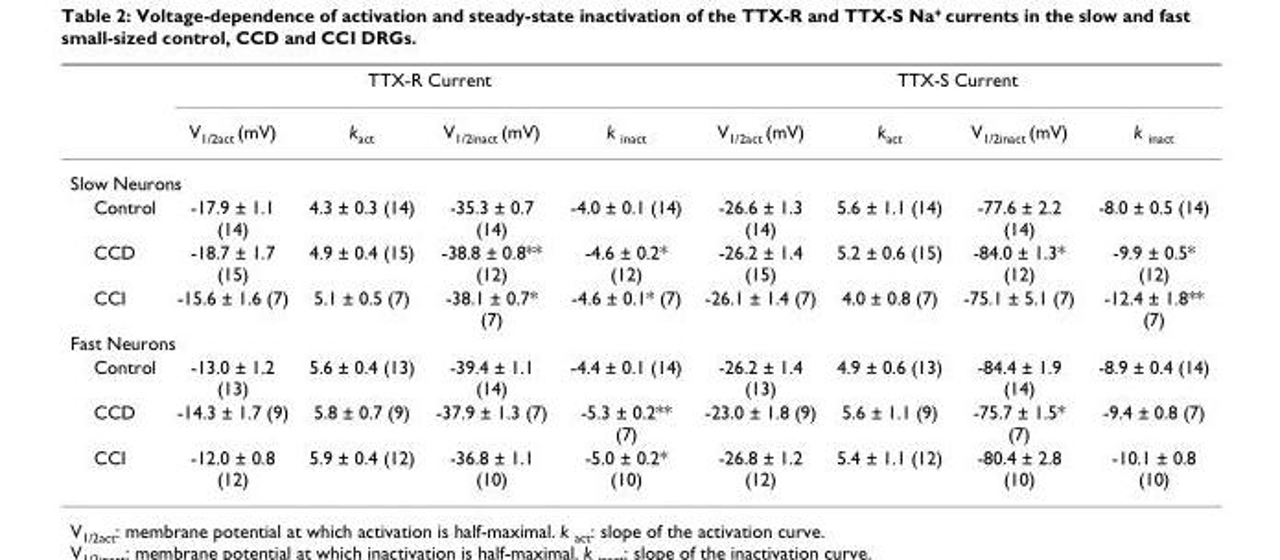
<table><thead><tr><td rowspan="2"></td><td colspan="4">TTX-R Current</td><td colspan="4">TTX-S Current</td></tr><tr><td>V<sub>1/2act</sub> (mV)</td><td>k<sub>act</sub></td><td>V<sub>1/2inact</sub> (mV)</td><td>k <sub>inact</sub></td><td>V<sub>1/2act</sub> (mV)</td><td>k<sub>act</sub></td><td>V<sub>1/2inact</sub> (mV)</td><td>k <sub>inact</sub></td></tr></thead><tbody><tr><td colspan="9">Slow Neurons</td></tr><tr><td>Control</td><td>-17.9 ± 1.1 (14)</td><td>4.3 ± 0.3 (14)</td><td>-35.3 ± 0.7 (14)</td><td>-4.0 ± 0.1 (14)</td><td>-26.6 ± 1.3 (14)</td><td>5.6 ± 1.1 (14)</td><td>-77.6 ± 2.2 (14)</td><td>-8.0 ± 0.5 (14)</td></tr><tr><td>CCD</td><td>-18.7 ± 1.7 (15)</td><td>4.9 ± 0.4 (15)</td><td>-38.8 ± 0.8** (12)</td><td>-4.6 ± 0.2* (12)</td><td>-26.2 ± 1.4 (15)</td><td>5.2 ± 0.6 (15)</td><td>-84.0 ± 1.3* (12)</td><td>-9.9 ± 0.5* (12)</td></tr><tr><td>CCI</td><td>-15.6 ± 1.6 (7)</td><td>5.1 ± 0.5 (7)</td><td>-38.1 ± 0.7* (7)</td><td>-4.6 ± 0.1* (7)</td><td>-26.1 ± 1.4 (7)</td><td>4.0 ± 0.8 (7)</td><td>-75.1 ± 5.1 (7)</td><td>-12.4 ± 1.8** (7)</td></tr><tr><td colspan="9">Fast Neurons</td></tr><tr><td>Control</td><td>-13.0 ± 1.2 (13)</td><td>5.6 ± 0.4 (13)</td><td>-39.4 ± 1.1 (14)</td><td>-4.4 ± 0.1 (14)</td><td>-26.2 ± 1.4 (13)</td><td>4.9 ± 0.6 (13)</td><td>-84.4 ± 1.9 (14)</td><td>-8.9 ± 0.4 (14)</td></tr><tr><td>CCD</td><td>-14.3 ± 1.7 (9)</td><td>5.8 ± 0.7 (9)</td><td>-37.9 ± 1.3 (7)</td><td>-5.3 ± 0.2** (7)</td><td>-23.0 ± 1.8 (9)</td><td>5.6 ± 1.1 (9)</td><td>-75.7 ± 1.5* (7)</td><td>-9.4 ± 0.8 (7)</td></tr><tr><td>CCI</td><td>-12.0 ± 0.8 (12)</td><td>5.9 ± 0.4 (12)</td><td>-36.8 ± 1.1 (10)</td><td>-5.0 ± 0.2* (10)</td><td>-26.8 ± 1.2 (12)</td><td>5.4 ± 1.1 (12)</td><td>-80.4 ± 2.8 (10)</td><td>-10.1 ± 0.8 (10)</td></tr></tbody></table>